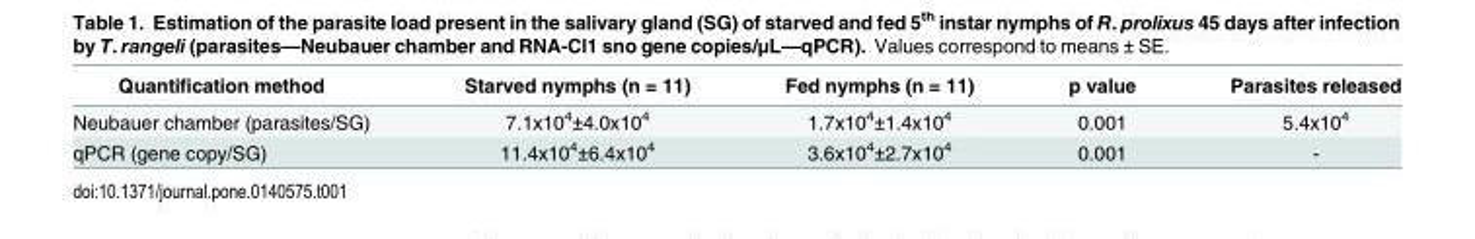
<table><thead><tr><td>Quantification method</td><td>Starved nymphs (n = 11)</td><td>Fed nymphs (n = 11)</td><td>p value</td><td>Parasites released</td></tr></thead><tbody><tr><td>Neubauer chamber (parasites/SG)</td><td>7.1x10<sup>4</sup>±4.0x10<sup>4</sup></td><td>1.7x10<sup>4</sup>±1.4x10<sup>4</sup></td><td>0.001</td><td>5.4x10<sup>4</sup></td></tr><tr><td>qPCR (gene copy/SG)</td><td>11.4x10<sup>4</sup>±6.4x10<sup>4</sup></td><td>3.6x10<sup>4</sup>±2.7x10<sup>4</sup></td><td>0.001</td><td>-</td></tr></tbody></table>